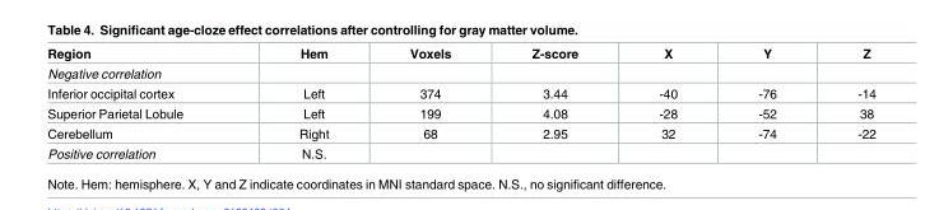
<table><thead><tr><td>Region</td><td>Hem</td><td>Voxels</td><td>Z-score</td><td>X</td><td>Y</td><td>Z</td></tr></thead><tbody><tr><td colspan="7">Negative correlation</td></tr><tr><td>Inferior occipital cortex</td><td>Left</td><td>374</td><td>3.44</td><td>-40</td><td>-76</td><td>-14</td></tr><tr><td>Superior Parietal Lobule</td><td>Left</td><td>199</td><td>4.08</td><td>-28</td><td>-52</td><td>38</td></tr><tr><td>Cerebellum</td><td>Right</td><td>68</td><td>2.95</td><td>32</td><td>-74</td><td>-22</td></tr><tr><td>Positive correlation</td><td>N.S.</td><td></td><td></td><td></td><td></td><td></td></tr></tbody></table>